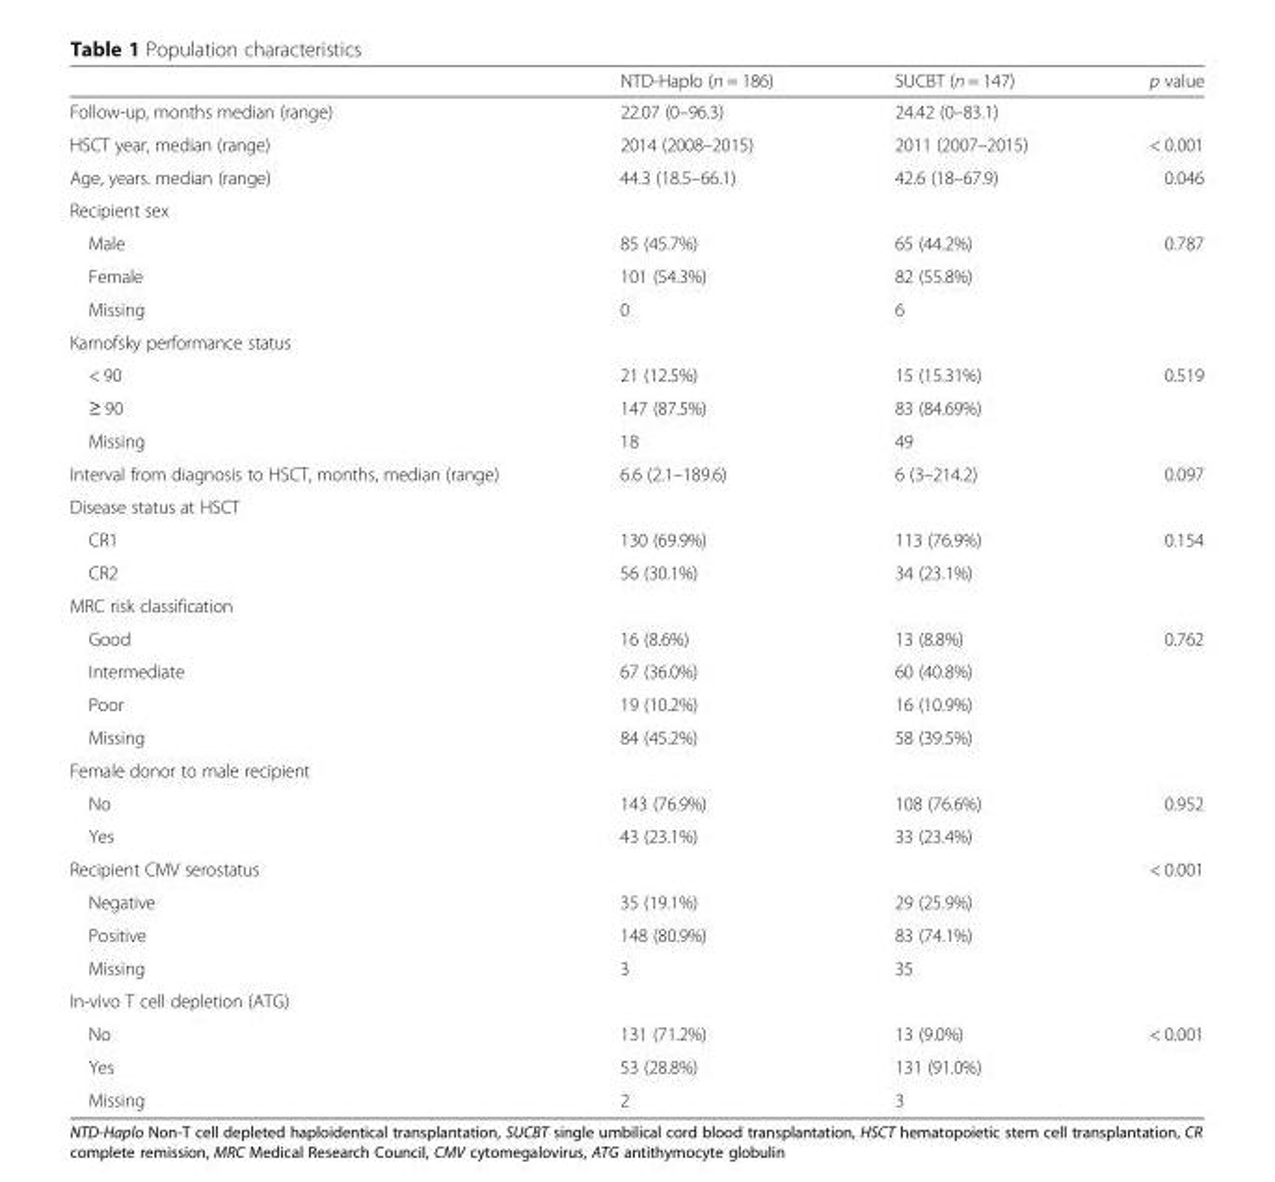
<table><thead><tr><td></td><td>NTD-Haplo (n = 186)</td><td>SUCBT (n = 147)</td><td>p value</td></tr></thead><tbody><tr><td>Follow-up, months median (range)</td><td>22.07 (0–96.3)</td><td>24.42 (0–83.1)</td><td></td></tr><tr><td>HSCT year, median (range)</td><td>2014 (2008–2015)</td><td>2011 (2007–2015)</td><td>&lt; 0.001</td></tr><tr><td>Age, years. median (range)</td><td>44.3 (18.5–66.1)</td><td>42.6 (18–67.9)</td><td>0.046</td></tr><tr><td colspan="4">Recipient sex</td></tr><tr><td>Male</td><td>85 (45.7%)</td><td>65 (44.2%)</td><td>0.787</td></tr><tr><td>Female</td><td>101 (54.3%)</td><td>82 (55.8%)</td><td></td></tr><tr><td>Missing</td><td>0</td><td>6</td><td></td></tr><tr><td colspan="4">Karnofsky performance status</td></tr><tr><td>&lt; 90</td><td>21 (12.5%)</td><td>15 (15.31%)</td><td>0.519</td></tr><tr><td>≥ 90</td><td>147 (87.5%)</td><td>83 (84.69%)</td><td></td></tr><tr><td>Missing</td><td>18</td><td>49</td><td></td></tr><tr><td>Interval from diagnosis to HSCT, months, median (range)</td><td>6.6 (2.1–189.6)</td><td>6 (3–214.2)</td><td>0.097</td></tr><tr><td colspan="4">Disease status at HSCT</td></tr><tr><td>CR1</td><td>130 (69.9%)</td><td>113 (76.9%)</td><td>0.154</td></tr><tr><td>CR2</td><td>56 (30.1%)</td><td>34 (23.1%)</td><td></td></tr><tr><td colspan="4">MRC risk classification</td></tr><tr><td>Good</td><td>16 (8.6%)</td><td>13 (8.8%)</td><td>0.762</td></tr><tr><td>Intermediate</td><td>67 (36.0%)</td><td>60 (40.8%)</td><td></td></tr><tr><td>Poor</td><td>19 (10.2%)</td><td>16 (10.9%)</td><td></td></tr><tr><td>Missing</td><td>84 (45.2%)</td><td>58 (39.5%)</td><td></td></tr><tr><td colspan="4">Female donor to male recipient</td></tr><tr><td>No</td><td>143 (76.9%)</td><td>108 (76.6%)</td><td>0.952</td></tr><tr><td>Yes</td><td>43 (23.1%)</td><td>33 (23.4%)</td><td></td></tr><tr><td>Recipient CMV serostatus</td><td></td><td></td><td>&lt; 0.001</td></tr><tr><td>Negative</td><td>35 (19.1%)</td><td>29 (25.9%)</td><td></td></tr><tr><td>Positive</td><td>148 (80.9%)</td><td>83 (74.1%)</td><td></td></tr><tr><td>Missing</td><td>3</td><td>35</td><td></td></tr><tr><td colspan="4">In-vivo T cell depletion (ATG)</td></tr><tr><td>No</td><td>131 (71.2%)</td><td>13 (9.0%)</td><td>&lt; 0.001</td></tr><tr><td>Yes</td><td>53 (28.8%)</td><td>131 (91.0%)</td><td></td></tr><tr><td>Missing</td><td>2</td><td>3</td><td></td></tr></tbody></table>